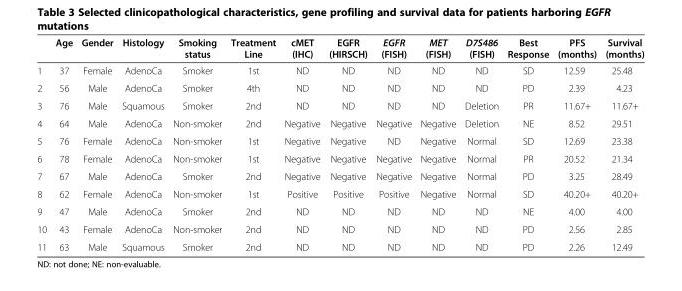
<table><thead><tr><td></td><td>Age</td><td>Gender</td><td>Histology</td><td>Smoking status</td><td>Treatment Line</td><td>cMET (IHC)</td><td>EGFR (HIRSCH)</td><td>EGFR (FISH)</td><td>MET (FISH)</td><td>D7S486 (FISH)</td><td>Best Response</td><td>PFS (months)</td><td>Survival (months)</td></tr></thead><tbody><tr><td>1</td><td>37</td><td>Female</td><td>AdenoCa</td><td>Smoker</td><td>1st</td><td>ND</td><td>ND</td><td>ND</td><td>ND</td><td>ND</td><td>SD</td><td>12.59</td><td>25.48</td></tr><tr><td>2</td><td>56</td><td>Male</td><td>AdenoCa</td><td>Smoker</td><td>4th</td><td>ND</td><td>ND</td><td>ND</td><td>ND</td><td>ND</td><td>PD</td><td>2.39</td><td>4.23</td></tr><tr><td>3</td><td>76</td><td>Male</td><td>Squamous</td><td>Smoker</td><td>2nd</td><td>ND</td><td>ND</td><td>ND</td><td>ND</td><td>Deletion</td><td>PR</td><td>11.67+</td><td>11.67+</td></tr><tr><td>4</td><td>64</td><td>Male</td><td>AdenoCa</td><td>Non-smoker</td><td>2nd</td><td>Negative</td><td>Negative</td><td>Negative</td><td>Negative</td><td>Deletion</td><td>NE</td><td>8.52</td><td>29.51</td></tr><tr><td>5</td><td>76</td><td>Female</td><td>AdenoCa</td><td>Non-smoker</td><td>1st</td><td>Negative</td><td>Negative</td><td>ND</td><td>Negative</td><td>Normal</td><td>SD</td><td>12.69</td><td>23.38</td></tr><tr><td>6</td><td>78</td><td>Female</td><td>AdenoCa</td><td>Non-smoker</td><td>1st</td><td>Negative</td><td>Negative</td><td>Negative</td><td>Negative</td><td>Normal</td><td>PR</td><td>20.52</td><td>21.34</td></tr><tr><td>7</td><td>67</td><td>Male</td><td>AdenoCa</td><td>Smoker</td><td>2nd</td><td>Negative</td><td>Negative</td><td>Negative</td><td>Negative</td><td>Normal</td><td>PD</td><td>3.25</td><td>28.49</td></tr><tr><td>8</td><td>62</td><td>Female</td><td>AdenoCa</td><td>Non-smoker</td><td>1st</td><td>Positive</td><td>Positive</td><td>Positive</td><td>Negative</td><td>Normal</td><td>SD</td><td>40.20+</td><td>40.20+</td></tr><tr><td>9</td><td>47</td><td>Male</td><td>AdenoCa</td><td>Smoker</td><td>2nd</td><td>ND</td><td>ND</td><td>ND</td><td>ND</td><td>ND</td><td>NE</td><td>4.00</td><td>4.00</td></tr><tr><td>10</td><td>43</td><td>Female</td><td>AdenoCa</td><td>Non-smoker</td><td>2nd</td><td>ND</td><td>ND</td><td>ND</td><td>ND</td><td>ND</td><td>PD</td><td>2.56</td><td>2.85</td></tr><tr><td>11</td><td>63</td><td>Male</td><td>Squamous</td><td>Smoker</td><td>2nd</td><td>ND</td><td>ND</td><td>ND</td><td>ND</td><td>ND</td><td>PD</td><td>2.26</td><td>12.49</td></tr></tbody></table>